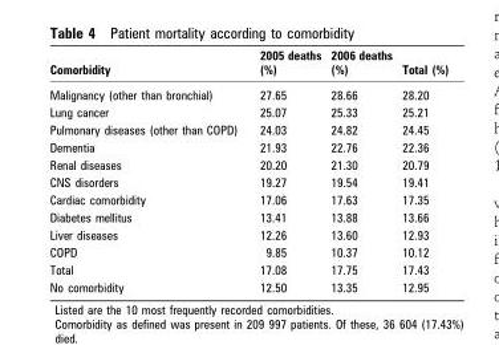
<table><thead><tr><td>Comorbidity</td><td>2005 deaths (%)</td><td>2006 deaths (%)</td><td>Total (%)</td></tr></thead><tbody><tr><td>Malignancy (other than bronchial)</td><td>27.65</td><td>28.66</td><td>28.20</td></tr><tr><td>Lung cancer</td><td>25.07</td><td>25.33</td><td>25.21</td></tr><tr><td>Pulmonary diseases (other than COPD)</td><td>24.03</td><td>24.82</td><td>24.45</td></tr><tr><td>Dementia</td><td>21.93</td><td>22.76</td><td>22.36</td></tr><tr><td>Renal diseases</td><td>20.20</td><td>21.30</td><td>20.79</td></tr><tr><td>CNS disorders</td><td>19.27</td><td>19.54</td><td>19.41</td></tr><tr><td>Cardiac comorbidity</td><td>17.06</td><td>17.63</td><td>17.35</td></tr><tr><td>Diabetes mellitus</td><td>13.41</td><td>13.88</td><td>13.66</td></tr><tr><td>Liver diseases</td><td>12.26</td><td>13.60</td><td>12.93</td></tr><tr><td>COPD</td><td>9.85</td><td>10.37</td><td>10.12</td></tr><tr><td>Total</td><td>17.08</td><td>17.75</td><td>17.43</td></tr><tr><td>No comorbidity</td><td>12.50</td><td>13.35</td><td>12.95</td></tr></tbody></table>